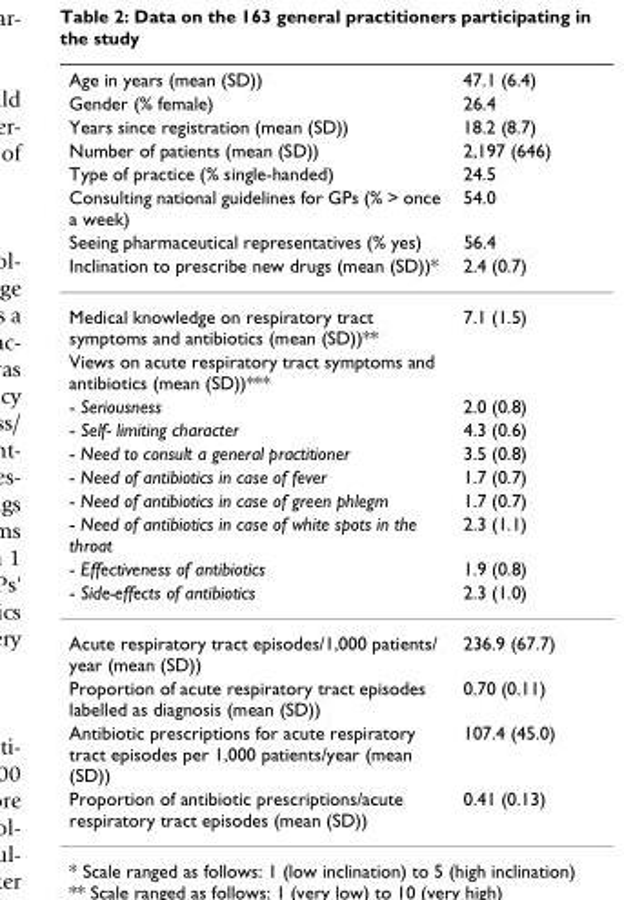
<table><thead><tr><td rowspan="8">Age in years (mean (SD)) Gender (% female) Years since registration (mean (SD)) Number of patients (mean (SD)) Type of practice (% single-handed) Consulting national guidelines for GPs (% &gt; once a week) Seeing pharmaceutical representatives (% yes) Inclination to prescribe new drugs (mean (SD))*</td><td rowspan="8">47.1 (6.4) 26.4 18.2 (8.7) 2,197 (646) 24.5 54.0 56.4 2.4 (0.7)</td></tr><tr></tr><tr></tr><tr></tr><tr></tr><tr></tr><tr></tr><tr></tr></thead><tbody><tr><td>Medical knowledge on respiratory tract symptoms and antibiotics (mean (SD))**</td><td>7.1 (1.5)</td></tr><tr><td colspan="2">Views on acute respiratory tract symptoms and antibiotics (mean (SD))***</td></tr><tr><td>- Seriousness</td><td>2.0 (0.8)</td></tr><tr><td>- Self- limiting character</td><td>4.3 (0.6)</td></tr><tr><td>- Need to consult a general practitioner</td><td>3.5 (0.8)</td></tr><tr><td>- Need of antibiotics in case of fever</td><td>1.7 (0.7)</td></tr><tr><td>- Need of antibiotics in case of green phlegm</td><td>1.7 (0.7)</td></tr><tr><td>- Need of antibiotics in case of white spots in the throat</td><td>2.3 (1.1)</td></tr><tr><td>- Effectiveness of antibiotics</td><td>1.9 (0.8)</td></tr><tr><td>- Side-effects of antibiotics</td><td>2.3 (1.0)</td></tr><tr><td>Acute respiratory tract episodes/1,000 patients/ year (mean (SD))</td><td>236.9 (67.7)</td></tr><tr><td>Proportion of acute respiratory tract episodes labelled as diagnosis (mean (SD))</td><td>0.70 (0.11)</td></tr><tr><td>Antibiotic prescriptions for acute respiratory tract episodes per 1,000 patients/year (mean (SD))</td><td>107.4 (45.0)</td></tr><tr><td>Proportion of antibiotic prescriptions/acute respiratory tract episodes (mean (SD))</td><td>0.41 (0.13)</td></tr></tbody></table>